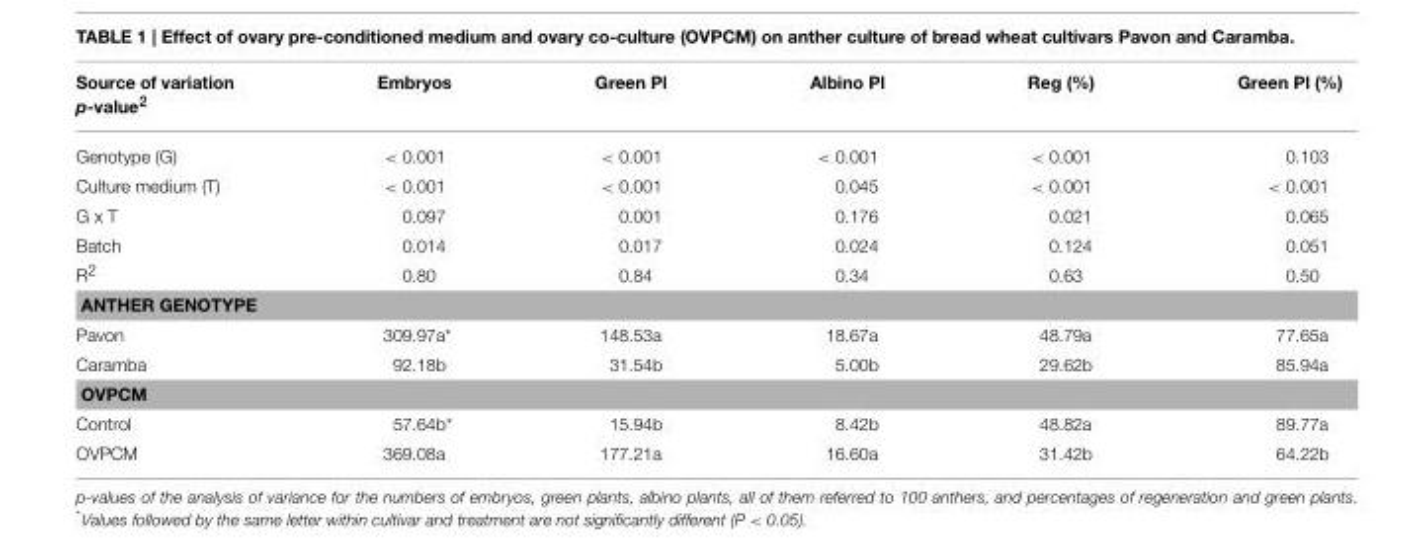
<table><thead><tr><td>Source of variation p-value<sup>2</sup></td><td>Embryos</td><td>Green Pl</td><td>Albino Pl</td><td>Reg (%)</td><td>Green Pl (%)</td></tr></thead><tbody><tr><td>Genotype (G)</td><td>&lt; 0.001</td><td>&lt; 0.001</td><td>&lt; 0.001</td><td>&lt; 0.001</td><td>0.103</td></tr><tr><td>Culture medium (T)</td><td>&lt; 0.001</td><td>&lt; 0.001</td><td>0.045</td><td>&lt; 0.001</td><td>&lt; 0.001</td></tr><tr><td>G x T</td><td>0.097</td><td>0.001</td><td>0.176</td><td>0.021</td><td>0.065</td></tr><tr><td>Batch</td><td>0.014</td><td>0.017</td><td>0.024</td><td>0.124</td><td>0.051</td></tr><tr><td>R<sup>2</sup></td><td>0.80</td><td>0.84</td><td>0.34</td><td>0.63</td><td>0.50</td></tr><tr><td colspan="6">ANTHER GENOTYPE</td></tr><tr><td>Pavon</td><td>309.97a*</td><td>148.53a</td><td>18.67a</td><td>48.79a</td><td>77.65a</td></tr><tr><td>Caramba</td><td>92.18b</td><td>31.54b</td><td>5.00b</td><td>29.62b</td><td>85.94a</td></tr><tr><td colspan="6">OVPCM</td></tr><tr><td>Control</td><td>57.64b*</td><td>15.94b</td><td>8.42b</td><td>48.82a</td><td>89.77a</td></tr><tr><td>OVPCM</td><td>369.08a</td><td>177.21a</td><td>16.60a</td><td>31.42b</td><td>64.22b</td></tr></tbody></table>